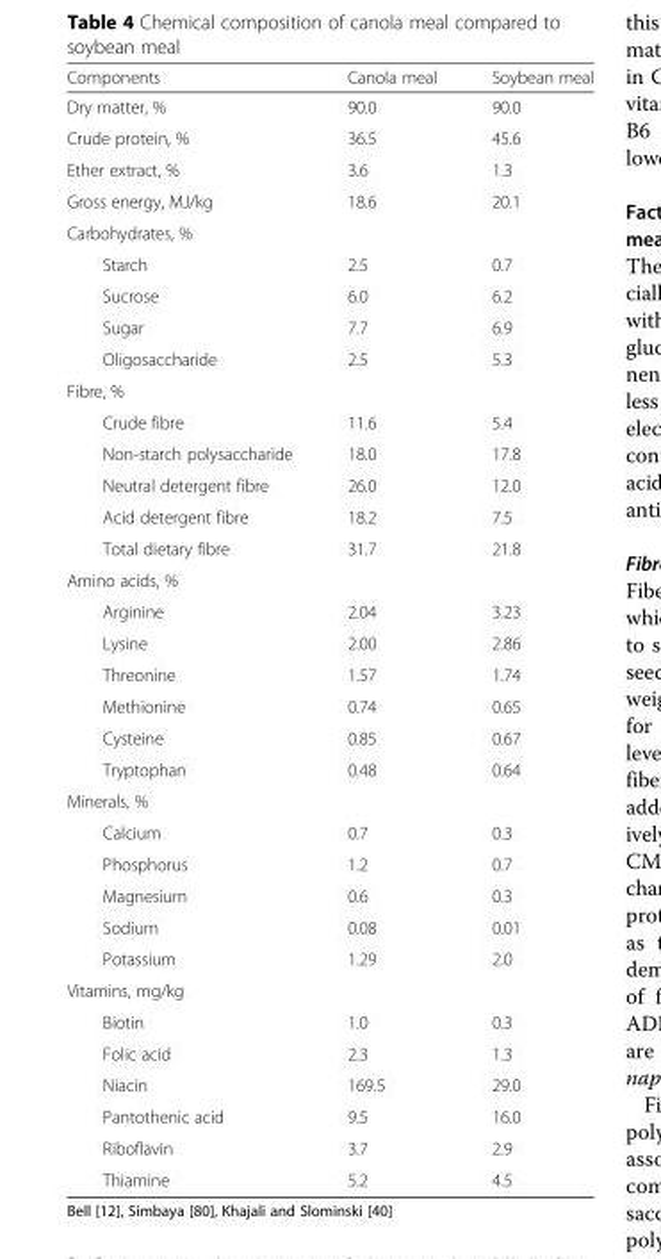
<table><thead><tr><td>Components</td><td>Canola meal</td><td>Soybean meal</td></tr></thead><tbody><tr><td>Dry matter, %</td><td>90.0</td><td>90.0</td></tr><tr><td>Crude protein, %</td><td>36.5</td><td>45.6</td></tr><tr><td>Ether extract, %</td><td>3.6</td><td>1.3</td></tr><tr><td>Gross energy, MJ/kg</td><td>18.6</td><td>20.1</td></tr><tr><td colspan="3">Carbohydrates, %</td></tr><tr><td>Starch</td><td>2.5</td><td>0.7</td></tr><tr><td>Sucrose</td><td>6.0</td><td>6.2</td></tr><tr><td>Sugar</td><td>7.7</td><td>6.9</td></tr><tr><td>Oligosaccharide</td><td>2.5</td><td>5.3</td></tr><tr><td colspan="3">Fibre, %</td></tr><tr><td>Crude fibre</td><td>11.6</td><td>5.4</td></tr><tr><td>Non-starch polysaccharide</td><td>18.0</td><td>17.8</td></tr><tr><td>Neutral detergent fibre</td><td>26.0</td><td>12.0</td></tr><tr><td>Acid detergent fibre</td><td>18.2</td><td>7.5</td></tr><tr><td>Total dietary fibre</td><td>31.7</td><td>21.8</td></tr><tr><td colspan="3">Amino acids, %</td></tr><tr><td>Arginine</td><td>2.04</td><td>3.23</td></tr><tr><td>Lysine</td><td>2.00</td><td>2.86</td></tr><tr><td>Threonine</td><td>1.57</td><td>1.74</td></tr><tr><td>Methionine</td><td>0.74</td><td>0.65</td></tr><tr><td>Cysteine</td><td>0.85</td><td>0.67</td></tr><tr><td>Tryptophan</td><td>0.48</td><td>0.64</td></tr><tr><td colspan="3">Minerals, %</td></tr><tr><td>Calcium</td><td>0.7</td><td>0.3</td></tr><tr><td>Phosphorus</td><td>1.2</td><td>0.7</td></tr><tr><td>Magnesium</td><td>0.6</td><td>0.3</td></tr><tr><td>Sodium</td><td>0.08</td><td>0.01</td></tr><tr><td>Potassium</td><td>1.29</td><td>2.0</td></tr><tr><td colspan="3">Vitamins, mg/kg</td></tr><tr><td>Biotin</td><td>1.0</td><td>0.3</td></tr><tr><td>Folic acid</td><td>2.3</td><td>1.3</td></tr><tr><td>Niacin</td><td>169.5</td><td>29.0</td></tr><tr><td>Pantothenic acid</td><td>9.5</td><td>16.0</td></tr><tr><td>Riboflavin</td><td>3.7</td><td>2.9</td></tr><tr><td>Thiamine</td><td>5.2</td><td>4.5</td></tr></tbody></table>